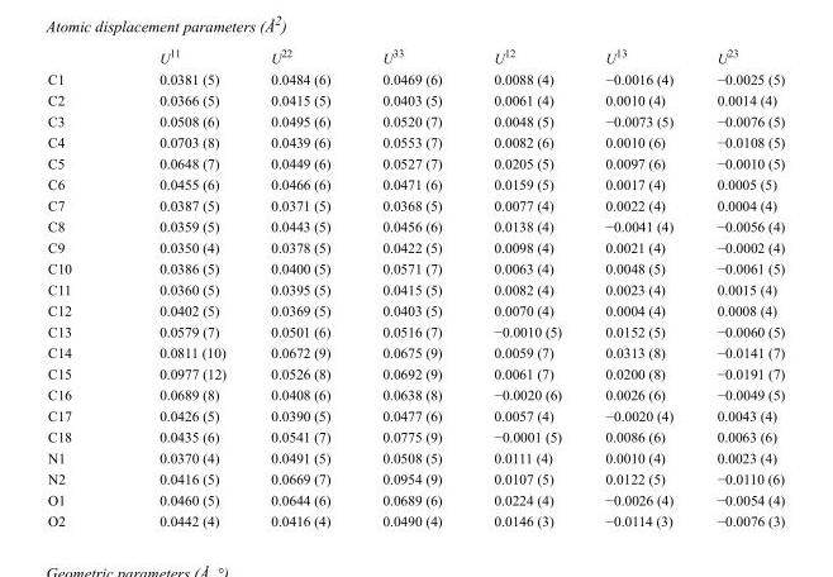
<table><thead><tr><td></td><td>U<sup>11</sup></td><td>U<sup>22</sup></td><td>U<sup>33</sup></td><td>U<sup>12</sup></td><td>U<sup>13</sup></td><td>U<sup>23</sup></td></tr></thead><tbody><tr><td>C1</td><td>0.0381 (5)</td><td>0.0484 (6)</td><td>0.0469 (6)</td><td>0.0088 (4)</td><td>−0.0016 (4)</td><td>−0.0025 (5)</td></tr><tr><td>C2</td><td>0.0366 (5)</td><td>0.0415 (5)</td><td>0.0403 (5)</td><td>0.0061 (4)</td><td>0.0010 (4)</td><td>0.0014 (4)</td></tr><tr><td>C3</td><td>0.0508 (6)</td><td>0.0495 (6)</td><td>0.0520 (7)</td><td>0.0048 (5)</td><td>−0.0073 (5)</td><td>−0.0076 (5)</td></tr><tr><td>C4</td><td>0.0703 (8)</td><td>0.0439 (6)</td><td>0.0553 (7)</td><td>0.0082 (6)</td><td>0.0010 (6)</td><td>−0.0108 (5)</td></tr><tr><td>C5</td><td>0.0648 (7)</td><td>0.0449 (6)</td><td>0.0527 (7)</td><td>0.0205 (5)</td><td>0.0097 (6)</td><td>−0.0010 (5)</td></tr><tr><td>C6</td><td>0.0455 (6)</td><td>0.0466 (6)</td><td>0.0471 (6)</td><td>0.0159 (5)</td><td>0.0017 (4)</td><td>0.0005 (5)</td></tr><tr><td>C7</td><td>0.0387 (5)</td><td>0.0371 (5)</td><td>0.0368 (5)</td><td>0.0077 (4)</td><td>0.0022 (4)</td><td>0.0004 (4)</td></tr><tr><td>C8</td><td>0.0359 (5)</td><td>0.0443 (5)</td><td>0.0456 (6)</td><td>0.0138 (4)</td><td>−0.0041 (4)</td><td>−0.0056 (4)</td></tr><tr><td>C9</td><td>0.0350 (4)</td><td>0.0378 (5)</td><td>0.0422 (5)</td><td>0.0098 (4)</td><td>0.0021 (4)</td><td>−0.0002 (4)</td></tr><tr><td>C10</td><td>0.0386 (5)</td><td>0.0400 (5)</td><td>0.0571 (7)</td><td>0.0063 (4)</td><td>0.0048 (5)</td><td>−0.0061 (5)</td></tr><tr><td>C11</td><td>0.0360 (5)</td><td>0.0395 (5)</td><td>0.0415 (5)</td><td>0.0082 (4)</td><td>0.0023 (4)</td><td>0.0015 (4)</td></tr><tr><td>C12</td><td>0.0402 (5)</td><td>0.0369 (5)</td><td>0.0403 (5)</td><td>0.0070 (4)</td><td>0.0004 (4)</td><td>0.0008 (4)</td></tr><tr><td>C13</td><td>0.0579 (7)</td><td>0.0501 (6)</td><td>0.0516 (7)</td><td>−0.0010 (5)</td><td>0.0152 (5)</td><td>−0.0060 (5)</td></tr><tr><td>C14</td><td>0.0811 (10)</td><td>0.0672 (9)</td><td>0.0675 (9)</td><td>0.0059 (7)</td><td>0.0313 (8)</td><td>−0.0141 (7)</td></tr><tr><td>C15</td><td>0.0977 (12)</td><td>0.0526 (8)</td><td>0.0692 (9)</td><td>0.0061 (7)</td><td>0.0200 (8)</td><td>−0.0191 (7)</td></tr><tr><td>C16</td><td>0.0689 (8)</td><td>0.0408 (6)</td><td>0.0638 (8)</td><td>−0.0020 (6)</td><td>0.0026 (6)</td><td>−0.0049 (5)</td></tr><tr><td>C17</td><td>0.0426 (5)</td><td>0.0390 (5)</td><td>0.0477 (6)</td><td>0.0057 (4)</td><td>−0.0020 (4)</td><td>0.0043 (4)</td></tr><tr><td>C18</td><td>0.0435 (6)</td><td>0.0541 (7)</td><td>0.0775 (9)</td><td>−0.0001 (5)</td><td>0.0086 (6)</td><td>0.0063 (6)</td></tr><tr><td>N1</td><td>0.0370 (4)</td><td>0.0491 (5)</td><td>0.0508 (5)</td><td>0.0111 (4)</td><td>0.0010 (4)</td><td>0.0023 (4)</td></tr><tr><td>N2</td><td>0.0416 (5)</td><td>0.0669 (7)</td><td>0.0954 (9)</td><td>0.0107 (5)</td><td>0.0122 (5)</td><td>−0.0110 (6)</td></tr><tr><td>O1</td><td>0.0460 (5)</td><td>0.0644 (6)</td><td>0.0689 (6)</td><td>0.0224 (4)</td><td>−0.0026 (4)</td><td>−0.0054 (4)</td></tr><tr><td>O2</td><td>0.0442 (4)</td><td>0.0416 (4)</td><td>0.0490 (4)</td><td>0.0146 (3)</td><td>−0.0114 (3)</td><td>−0.0076 (3)</td></tr></tbody></table>